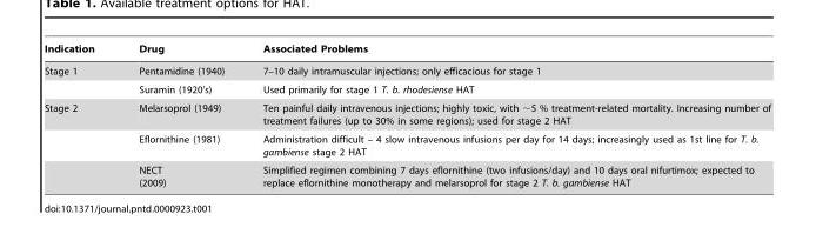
<table><thead><tr><td>Indication</td><td>Drug</td><td>Associated Problems</td></tr></thead><tbody><tr><td rowspan="2">Stage 1</td><td>Pentamidine (1940)</td><td>7–10 daily intramuscular injections; only efficacious for stage 1</td></tr><tr><td>Suramin (1920’s)</td><td>Used primarily for stage 1 T. b. rhodesiense HAT</td></tr><tr><td rowspan="3">Stage 2</td><td>Melarsoprol (1949)</td><td>Ten painful daily intravenous injections; highly toxic, with ∼5 % treatment-related mortality. Increasing number of treatment failures (up to 30% in some regions); used for stage 2 HAT</td></tr><tr><td>Eflornithine (1981)</td><td>Administration difficult – 4 slow intravenous infusions per day for 14 days; increasingly used as 1st line for T. b. gambiense stage 2 HAT</td></tr><tr><td>NECT (2009)</td><td>Simplified regimen combining 7 days eflornithine (two infusions/day) and 10 days oral nifurtimox; expected to replace eflornithine monotherapy and melarsoprol for stage 2 T. b. gambiense HAT</td></tr></tbody></table>